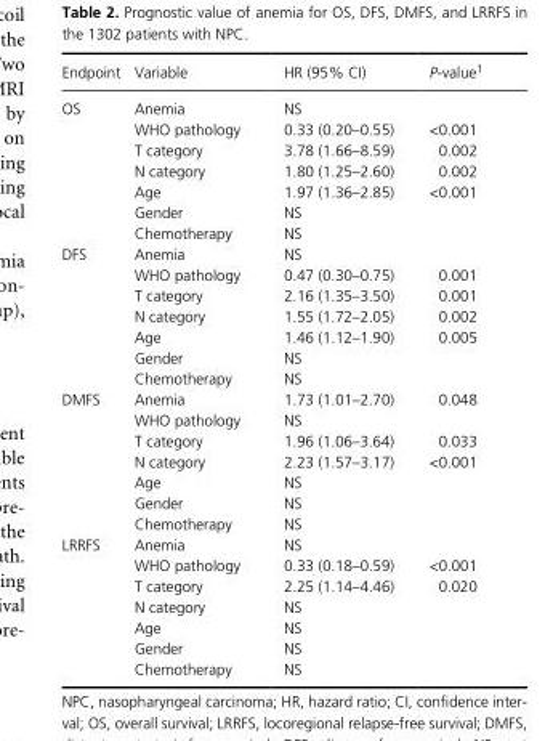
<table><thead><tr><td>Endpoint</td><td>Variable</td><td>HR (95% CI)</td><td>P- value1</td></tr></thead><tbody><tr><td rowspan="7">OS</td><td>Anemia</td><td>NS</td><td></td></tr><tr><td>WHO pathology</td><td>0.33 (0.20–0.55)</td><td>&lt;0.001</td></tr><tr><td>T category</td><td>3.78 (1.66–8.59)</td><td>0.002</td></tr><tr><td>N category</td><td>1.80 (1.25–2.60)</td><td>0.002</td></tr><tr><td>Age</td><td>1.97 (1.36–2.85)</td><td>&lt;0.001</td></tr><tr><td>Gender</td><td>NS</td><td></td></tr><tr><td>Chemotherapy</td><td>NS</td><td></td></tr><tr><td rowspan="7">DFS</td><td>Anemia</td><td>NS</td><td></td></tr><tr><td>WHO pathology</td><td>0.47 (0.30–0.75)</td><td>0.001</td></tr><tr><td>T category</td><td>2.16 (1.35–3.50)</td><td>0.001</td></tr><tr><td>N category</td><td>1.55 (1.72–2.05)</td><td>0.002</td></tr><tr><td>Age</td><td>1.46 (1.12–1.90)</td><td>0.005</td></tr><tr><td>Gender</td><td>NS</td><td></td></tr><tr><td>Chemotherapy</td><td>NS</td><td></td></tr><tr><td rowspan="7">DMFS</td><td>Anemia</td><td>1.73 (1.01–2.70)</td><td>0.048</td></tr><tr><td>WHO pathology</td><td>NS</td><td></td></tr><tr><td>T category</td><td>1.96 (1.06–3.64)</td><td>0.033</td></tr><tr><td>N category</td><td>2.23 (1.57–3.17)</td><td>&lt;0.001</td></tr><tr><td>Age</td><td>NS</td><td></td></tr><tr><td>Gender</td><td>NS</td><td></td></tr><tr><td>Chemotherapy</td><td>NS</td><td></td></tr><tr><td rowspan="7">LRRFS</td><td>Anemia</td><td>NS</td><td></td></tr><tr><td>WHO pathology</td><td>0.33 (0.18–0.59)</td><td>&lt;0.001</td></tr><tr><td>T category</td><td>2.25 (1.14–4.46)</td><td>0.020</td></tr><tr><td>N category</td><td>NS</td><td></td></tr><tr><td>Age</td><td>NS</td><td></td></tr><tr><td>Gender</td><td>NS</td><td></td></tr><tr><td>Chemotherapy</td><td>NS</td><td></td></tr></tbody></table>